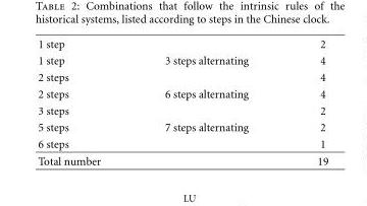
<table><tbody><tr><td>1 step</td><td></td><td>2</td></tr><tr><td>1 step</td><td>3 steps alternating</td><td>4</td></tr><tr><td>2 steps</td><td></td><td>4</td></tr><tr><td>2 steps</td><td>6 steps alternating</td><td>4</td></tr><tr><td>3 steps</td><td></td><td>2</td></tr><tr><td>5 steps</td><td>7 steps alternating</td><td>2</td></tr><tr><td>6 steps</td><td></td><td>1</td></tr><tr><td>Total number</td><td></td><td>19</td></tr></tbody></table>